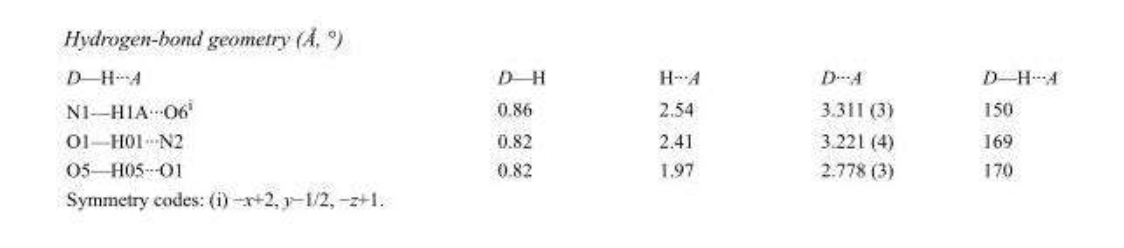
<table><tbody><tr><td>D—H···A</td><td>D—H</td><td>H···A</td><td>D···A</td><td>D—H···A</td></tr><tr><td>N1—H1A···O6<sup>i</sup></td><td>0.86</td><td>2.54</td><td>3.311 (3)</td><td>150</td></tr><tr><td>O1—H01···N2</td><td>0.82</td><td>2.41</td><td>3.221 (4)</td><td>169</td></tr><tr><td>O5—H05···O1</td><td>0.82</td><td>1.97</td><td>2.778 (3)</td><td>170</td></tr></tbody></table>